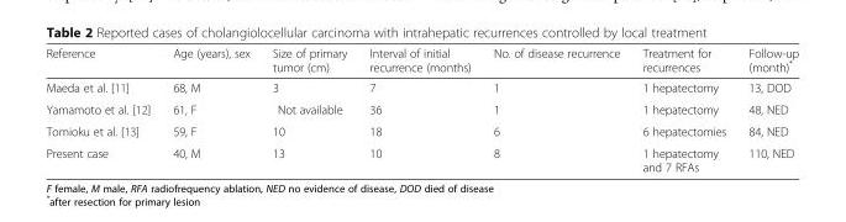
<table><thead><tr><td>Reference</td><td>Age (years), sex</td><td>Size of primary tumor (cm)</td><td>Interval of initial recurrence (months)</td><td>No. of disease recurrence</td><td>Treatment for recurrences</td><td>Follow-up (month)*</td></tr></thead><tbody><tr><td>Maeda et al. [11]</td><td>68, M</td><td>3</td><td>7</td><td>1</td><td>1 hepatectomy</td><td>13, DOD</td></tr><tr><td>Yamamoto et al. [12]</td><td>61, F</td><td>Not available</td><td>36</td><td>1</td><td>1 hepatectomy</td><td>48, NED</td></tr><tr><td>Tomioku et al. [13]</td><td>59, F</td><td>10</td><td>18</td><td>6</td><td>6 hepatectomies</td><td>84, NED</td></tr><tr><td>Present case</td><td>40, M</td><td>13</td><td>10</td><td>8</td><td>1 hepatectomy and 7 RFAs</td><td>110, NED</td></tr></tbody></table>